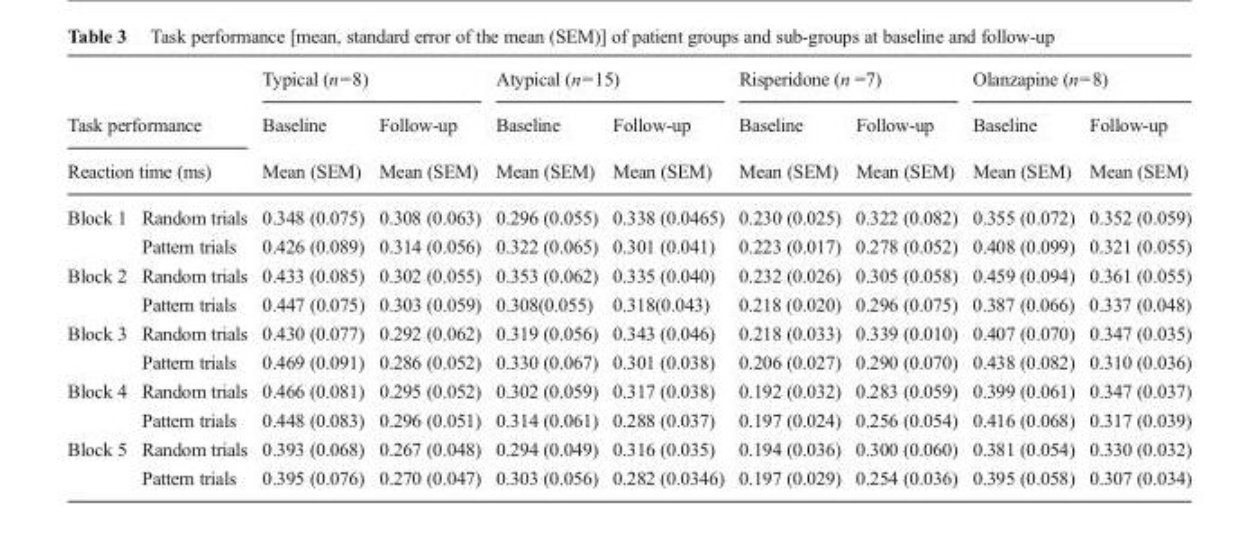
<table><thead><tr><td></td><td></td><td colspan="2">Typical (n=8)</td><td colspan="2">Atypical (n=15)</td><td colspan="2">Risperidone (n =7)</td><td colspan="2">Olanzapine (n=8)</td></tr><tr><td rowspan="2" colspan="2">Task performance Reaction time (ms)</td><td rowspan="2">Baseline Mean (SEM)</td><td rowspan="2">Follow-up Mean (SEM)</td><td rowspan="2">Baseline Mean (SEM)</td><td rowspan="2">Follow-up Mean (SEM)</td><td rowspan="2">Baseline Mean (SEM)</td><td rowspan="2">Follow-up Mean (SEM)</td><td rowspan="2">Baseline Mean (SEM)</td><td rowspan="2">Follow-up Mean (SEM)</td></tr><tr></tr></thead><tbody><tr><td rowspan="2">Block 1</td><td>Random trials</td><td>0.348 (0.075)</td><td>0.308 (0.063)</td><td>0.296 (0.055)</td><td>0.338 (0.0465)</td><td>0.230 (0.025)</td><td>0.322 (0.082)</td><td>0.355 (0.072)</td><td>0.352 (0.059)</td></tr><tr><td>Pattern trials</td><td>0.426 (0.089)</td><td>0.314 (0.056)</td><td>0.322 (0.065)</td><td>0.301 (0.041)</td><td>0.223 (0.017)</td><td>0.278 (0.052)</td><td>0.408 (0.099)</td><td>0.321 (0.055)</td></tr><tr><td rowspan="2">Block 2</td><td>Random trials</td><td>0.433 (0.085)</td><td>0.302 (0.055)</td><td>0.353 (0.062)</td><td>0.335 (0.040)</td><td>0.232 (0.026)</td><td>0.305 (0.058)</td><td>0.459 (0.094)</td><td>0.361 (0.055)</td></tr><tr><td>Pattern trials</td><td>0.447 (0.075)</td><td>0.303 (0.059)</td><td>0.308(0.055)</td><td>0.318(0.043)</td><td>0.218 (0.020)</td><td>0.296 (0.075)</td><td>0.387 (0.066)</td><td>0.337 (0.048)</td></tr><tr><td rowspan="2">Block 3</td><td>Random trials</td><td>0.430 (0.077)</td><td>0.292 (0.062)</td><td>0.319 (0.056)</td><td>0.343 (0.046)</td><td>0.218 (0.033)</td><td>0.339 (0.010)</td><td>0.407 (0.070)</td><td>0.347 (0.035)</td></tr><tr><td>Pattern trials</td><td>0.469 (0.091)</td><td>0.286 (0.052)</td><td>0.330 (0.067)</td><td>0.301 (0.038)</td><td>0.206 (0.027)</td><td>0.290 (0.070)</td><td>0.438 (0.082)</td><td>0.310 (0.036)</td></tr><tr><td rowspan="2">Block 4</td><td>Random trials</td><td>0.466 (0.081)</td><td>0.295 (0.052)</td><td>0.302 (0.059)</td><td>0.317 (0.038)</td><td>0.192 (0.032)</td><td>0.283 (0.059)</td><td>0.399 (0.061)</td><td>0.347 (0.037)</td></tr><tr><td>Pattern trials</td><td>0.448 (0.083)</td><td>0.296 (0.051)</td><td>0.314 (0.061)</td><td>0.288 (0.037)</td><td>0.197 (0.024)</td><td>0.256 (0.054)</td><td>0.416 (0.068)</td><td>0.317 (0.039)</td></tr><tr><td rowspan="2">Block 5</td><td>Random trials</td><td>0.393 (0.068)</td><td>0.267 (0.048)</td><td>0.294 (0.049)</td><td>0.316 (0.035)</td><td>0.194 (0.036)</td><td>0.300 (0.060)</td><td>0.381 (0.054)</td><td>0.330 (0.032)</td></tr><tr><td>Pattern trials</td><td>0.395 (0.076)</td><td>0.270 (0.047)</td><td>0.303 (0.056)</td><td>0.282 (0.0346)</td><td>0.197 (0.029)</td><td>0.254 (0.036)</td><td>0.395 (0.058)</td><td>0.307 (0.034)</td></tr></tbody></table>